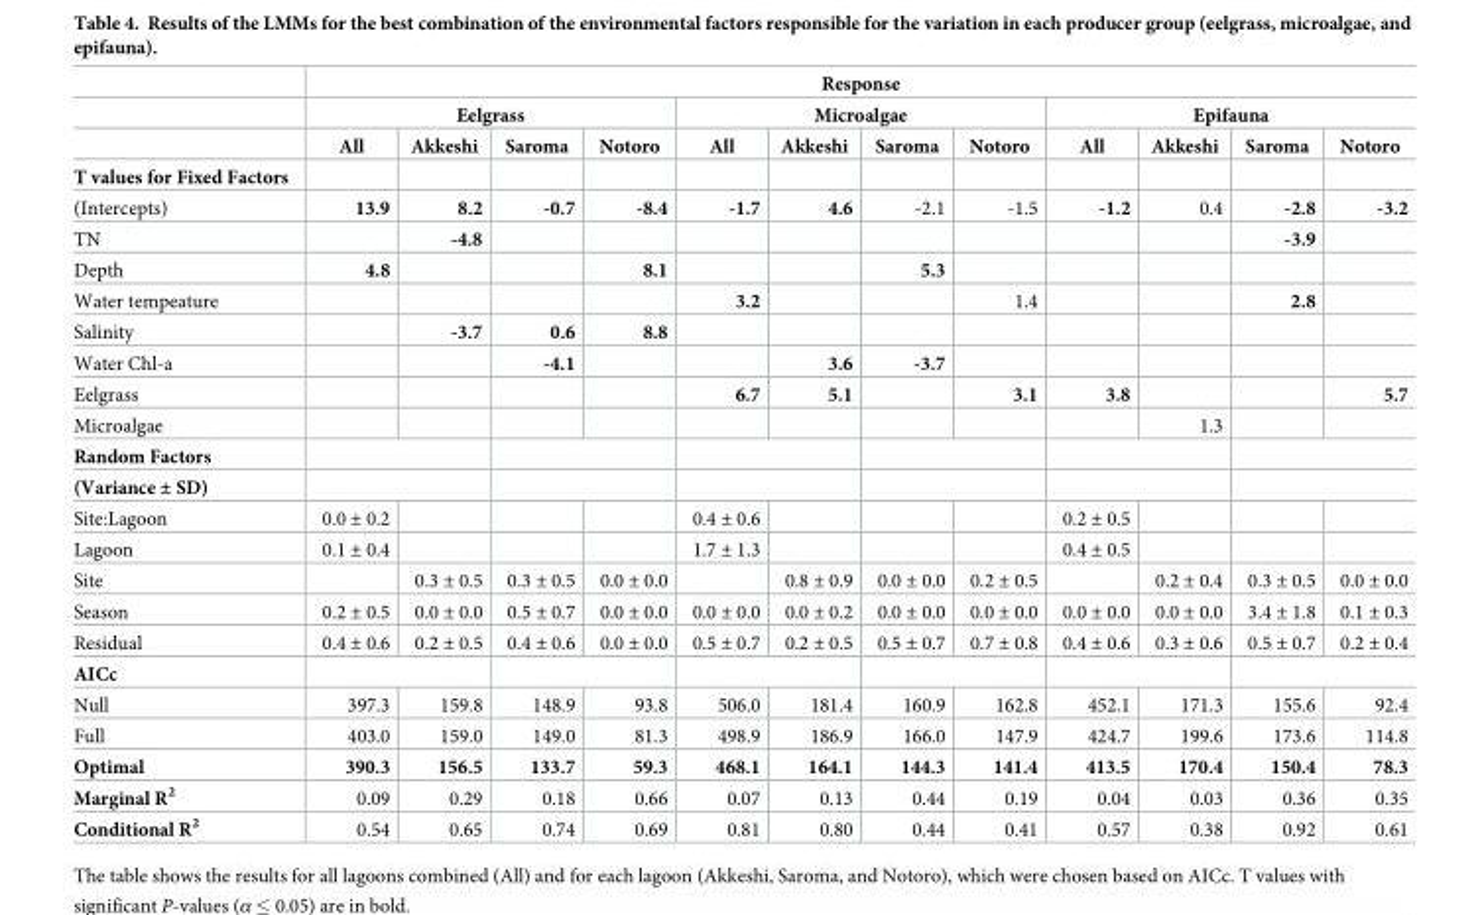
<table><thead><tr><td rowspan="3"></td><td colspan="12">Response</td></tr><tr><td colspan="4">Eelgrass</td><td colspan="4">Microalgae</td><td colspan="4">Epifauna</td></tr><tr><td>All</td><td>Akkeshi</td><td>Saroma</td><td>Notoro</td><td>All</td><td>Akkeshi</td><td>Saroma</td><td>Notoro</td><td>All</td><td>Akkeshi</td><td>Saroma</td><td>Notoro</td></tr></thead><tbody><tr><td colspan="13">T values for Fixed Factors</td></tr><tr><td>(Intercepts)</td><td>13.9</td><td>8.2</td><td>-0.7</td><td>-8.4</td><td>-1.7</td><td>4.6</td><td>-2.1</td><td>-1.5</td><td>-1.2</td><td>0.4</td><td>-2.8</td><td>-3.2</td></tr><tr><td>TN</td><td></td><td>-4.8</td><td></td><td></td><td></td><td></td><td></td><td></td><td></td><td></td><td>-3.9</td><td></td></tr><tr><td>Depth</td><td>4.8</td><td></td><td></td><td>8.1</td><td></td><td></td><td>5.3</td><td></td><td></td><td></td><td></td><td></td></tr><tr><td>Water tempeature</td><td></td><td></td><td></td><td></td><td>3.2</td><td></td><td></td><td>1.4</td><td></td><td></td><td>2.8</td><td></td></tr><tr><td>Salinity</td><td></td><td>-3.7</td><td>0.6</td><td>8.8</td><td></td><td></td><td></td><td></td><td></td><td></td><td></td><td></td></tr><tr><td>Water Chl-a</td><td></td><td></td><td>-4.1</td><td></td><td></td><td>3.6</td><td>-3.7</td><td></td><td></td><td></td><td></td><td></td></tr><tr><td>Eelgrass</td><td></td><td></td><td></td><td></td><td>6.7</td><td>5.1</td><td></td><td>3.1</td><td>3.8</td><td></td><td></td><td>5.7</td></tr><tr><td>Microalgae</td><td></td><td></td><td></td><td></td><td></td><td></td><td></td><td></td><td></td><td>1.3</td><td></td><td></td></tr><tr><td colspan="13">Random Factors</td></tr><tr><td colspan="13">(Variance ± SD)</td></tr><tr><td>Site:Lagoon</td><td>0.0 ± 0.2</td><td></td><td></td><td></td><td>0.4 ± 0.6</td><td></td><td></td><td></td><td>0.2 ± 0.5</td><td></td><td></td><td></td></tr><tr><td>Lagoon</td><td>0.1 ± 0.4</td><td></td><td></td><td></td><td>1.7 ± 1.3</td><td></td><td></td><td></td><td>0.4 ± 0.5</td><td></td><td></td><td></td></tr><tr><td>Site</td><td></td><td>0.3 ± 0.5</td><td>0.3 ± 0.5</td><td>0.0 ± 0.0</td><td></td><td>0.8 ± 0.9</td><td>0.0 ± 0.0</td><td>0.2 ± 0.5</td><td></td><td>0.2 ± 0.4</td><td>0.3 ± 0.5</td><td>0.0 ± 0.0</td></tr><tr><td>Season</td><td>0.2 ± 0.5</td><td>0.0 ± 0.0</td><td>0.5 ± 0.7</td><td>0.0 ± 0.0</td><td>0.0 ± 0.0</td><td>0.0 ± 0.2</td><td>0.0 ± 0.0</td><td>0.0 ± 0.0</td><td>0.0 ± 0.0</td><td>0.0 ± 0.0</td><td>3.4 ± 1.8</td><td>0.1 ± 0.3</td></tr><tr><td>Residual</td><td>0.4 ± 0.6</td><td>0.2 ± 0.5</td><td>0.4 ± 0.6</td><td>0.0 ± 0.0</td><td>0.5 ± 0.7</td><td>0.2 ± 0.5</td><td>0.5 ± 0.7</td><td>0.7 ± 0.8</td><td>0.4 ± 0.6</td><td>0.3 ± 0.6</td><td>0.5 ± 0.7</td><td>0.2 ± 0.4</td></tr><tr><td colspan="13">AICc</td></tr><tr><td>Null</td><td>397.3</td><td>159.8</td><td>148.9</td><td>93.8</td><td>506.0</td><td>181.4</td><td>160.9</td><td>162.8</td><td>452.1</td><td>171.3</td><td>155.6</td><td>92.4</td></tr><tr><td>Full</td><td>403.0</td><td>159.0</td><td>149.0</td><td>81.3</td><td>498.9</td><td>186.9</td><td>166.0</td><td>147.9</td><td>424.7</td><td>199.6</td><td>173.6</td><td>114.8</td></tr><tr><td>Optimal</td><td>390.3</td><td>156.5</td><td>133.7</td><td>59.3</td><td>468.1</td><td>164.1</td><td>144.3</td><td>141.4</td><td>413.5</td><td>170.4</td><td>150.4</td><td>78.3</td></tr><tr><td>Marginal R<sup>2</sup></td><td>0.09</td><td>0.29</td><td>0.18</td><td>0.66</td><td>0.07</td><td>0.13</td><td>0.44</td><td>0.19</td><td>0.04</td><td>0.03</td><td>0.36</td><td>0.35</td></tr><tr><td>Conditional R<sup>2</sup></td><td>0.54</td><td>0.65</td><td>0.74</td><td>0.69</td><td>0.81</td><td>0.80</td><td>0.44</td><td>0.41</td><td>0.57</td><td>0.38</td><td>0.92</td><td>0.61</td></tr></tbody></table>